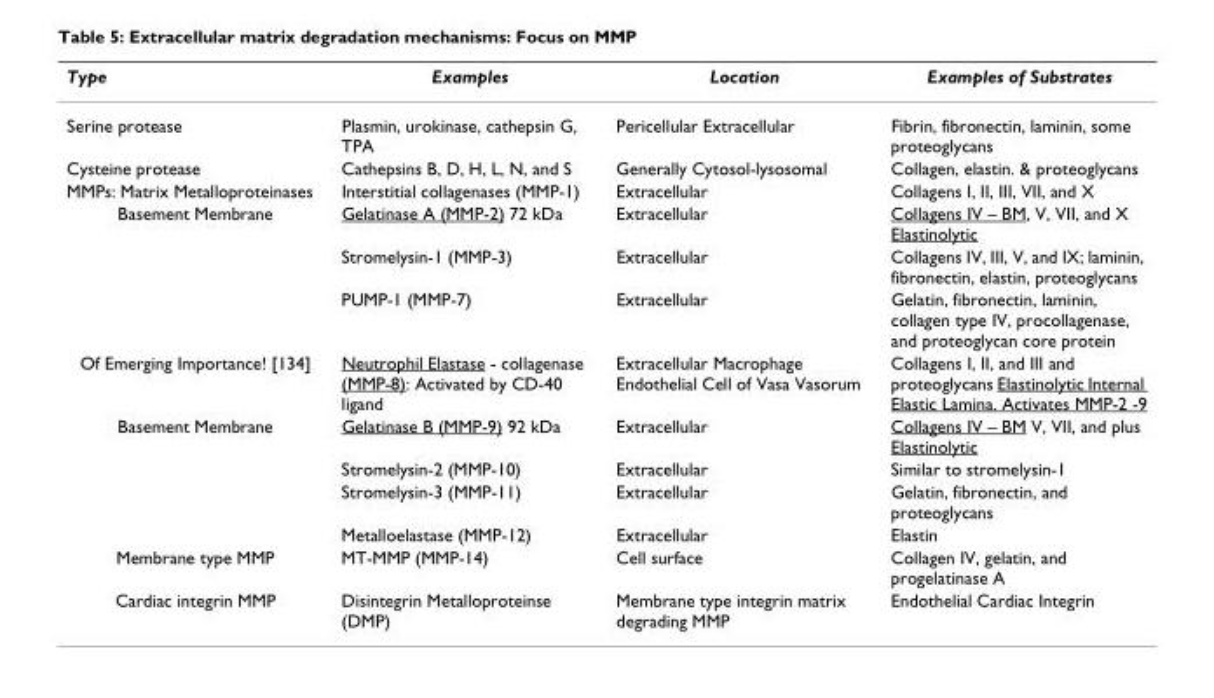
<table><thead><tr><td>Type</td><td>Examples</td><td>Location</td><td>Examples of Substrates</td></tr></thead><tbody><tr><td>Serine protease</td><td>Plasmin, urokinase, cathepsin G, TPA</td><td>Pericellular Extracellular</td><td>Fibrin, fibronectin, laminin, some proteoglycans</td></tr><tr><td>Cysteine protease</td><td>Cathepsins B, D, H, L, N, and S</td><td>Generally Cytosol-lysosomal</td><td>Collagen, elastin. &amp; proteoglycans</td></tr><tr><td>MMPs: Matrix Metalloproteinases</td><td>Interstitial collagenases (MMP-1)</td><td>Extracellular</td><td>Collagens I, II, III, VII, and X</td></tr><tr><td rowspan="3">Basement Membrane</td><td>Gelatinase A (MMP-2) 72 kDa</td><td>Extracellular</td><td>Collagens IV – BM, V, VII, and X Elastinolytic</td></tr><tr><td>Stromelysin-1 (MMP-3)</td><td>Extracellular</td><td>Collagens IV, III, V, and IX; laminin, fibronectin, elastin, proteoglycans</td></tr><tr><td>PUMP-1 (MMP-7)</td><td>Extracellular</td><td>Gelatin, fibronectin, laminin, collagen type IV, procollagenase, and proteoglycan core protein</td></tr><tr><td>Of Emerging Importance! [134]</td><td>Neutrophil Elastase - collagenase (MMP-8): Activated by CD-40 ligand</td><td>Extracellular Macrophage Endothelial Cell of Vasa Vasorum</td><td>Collagens I, II, and III and proteoglycans Elastinolytic Internal Elastic Lamina. Activates MMP-2 -9</td></tr><tr><td rowspan="4">Basement Membrane</td><td>Gelatinase B (MMP-9) 92 kDa</td><td>Extracellular</td><td>Collagens IV – BM V, VII, and plus Elastinolytic</td></tr><tr><td>Stromelysin-2 (MMP-10)</td><td>Extracellular</td><td>Similar to stromelysin-1</td></tr><tr><td>Stromelysin-3 (MMP-11)</td><td>Extracellular</td><td>Gelatin, fibronectin, and proteoglycans</td></tr><tr><td>Metalloelastase (MMP-12)</td><td>Extracellular</td><td>Elastin</td></tr><tr><td>Membrane type MMP</td><td>MT-MMP (MMP-14)</td><td>Cell surface</td><td>Collagen IV, gelatin, and progelatinase A</td></tr><tr><td>Cardiac integrin MMP</td><td>Disintegrin Metalloproteinse (DMP)</td><td>Membrane type integrin matrix degrading MMP</td><td>Endothelial Cardiac Integrin</td></tr></tbody></table>